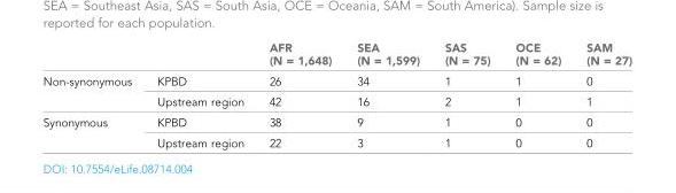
<table><thead><tr><td></td><td></td><td>AFR (N = 1,648)</td><td>SEA (N = 1,599)</td><td>SAS (N = 75)</td><td>OCE (N = 62)</td><td>SAM (N = 27)</td></tr></thead><tbody><tr><td rowspan="2">Non-synonymous</td><td>KPBD</td><td>26</td><td>34</td><td>1</td><td>1</td><td>0</td></tr><tr><td>Upstream region</td><td>42</td><td>16</td><td>2</td><td>1</td><td>1</td></tr><tr><td rowspan="2">Synonymous</td><td>KPBD</td><td>38</td><td>9</td><td>1</td><td>0</td><td>0</td></tr><tr><td>Upstream region</td><td>22</td><td>3</td><td>1</td><td>0</td><td>0</td></tr></tbody></table>